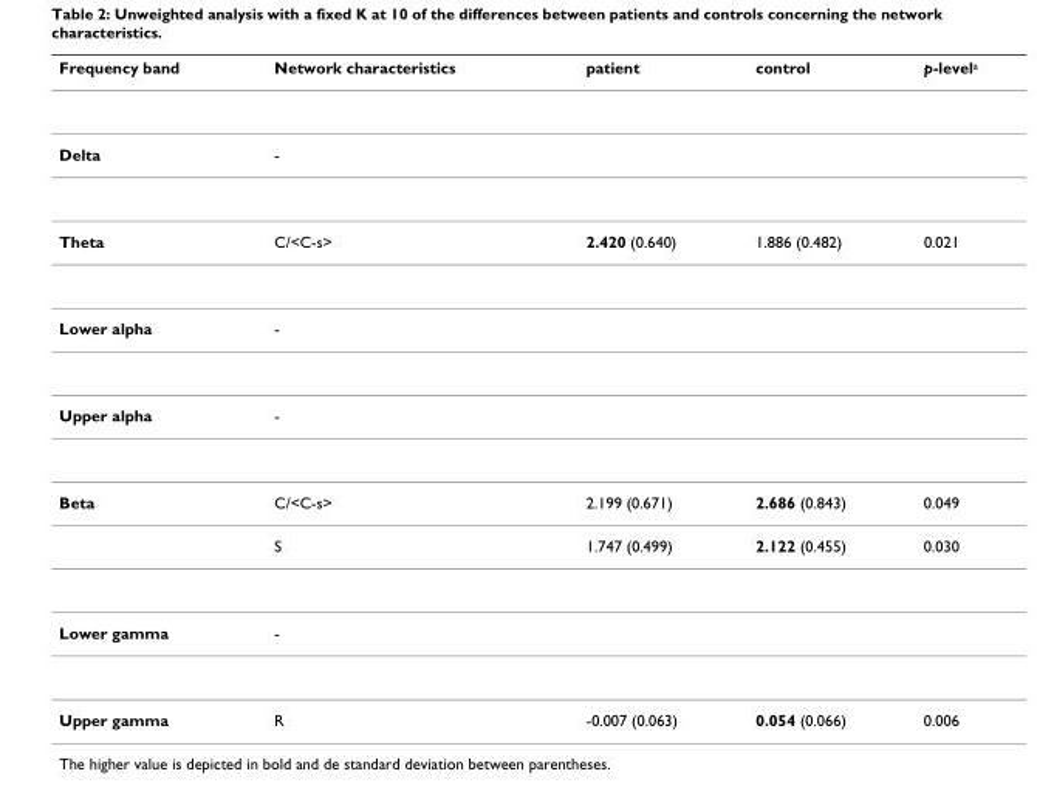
<table><thead><tr><td>Frequency band</td><td>Network characteristics</td><td>patient</td><td>control</td><td>p-levela</td></tr></thead><tbody><tr><td>Delta</td><td>-</td><td></td><td></td><td></td></tr><tr><td>Theta</td><td>C/&lt;C-s&gt;</td><td>2.420 (0.640)</td><td>1.886 (0.482)</td><td>0.021</td></tr><tr><td>Lower alpha</td><td>-</td><td></td><td></td><td></td></tr><tr><td>Upper alpha</td><td>-</td><td></td><td></td><td></td></tr><tr><td rowspan="2">Beta</td><td>C/&lt;C-s&gt;</td><td>2.199 (0.671)</td><td>2.686 (0.843)</td><td>0.049</td></tr><tr><td>S</td><td>1.747 (0.499)</td><td>2.122 (0.455)</td><td>0.030</td></tr><tr><td>Lower gamma</td><td>-</td><td></td><td></td><td></td></tr><tr><td>Upper gamma</td><td>R</td><td>-0.007 (0.063)</td><td>0.054 (0.066)</td><td>0.006</td></tr></tbody></table>